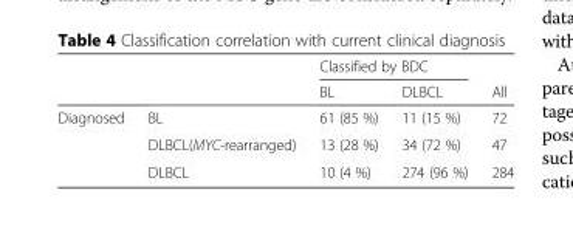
<table><thead><tr><td rowspan="2"></td><td rowspan="2"></td><td colspan="2">Classified by BDC</td><td rowspan="2">All</td></tr><tr><td>BL</td><td>DLBCL</td></tr></thead><tbody><tr><td rowspan="3">Diagnosed</td><td>BL</td><td>61 (85 %)</td><td>11 (15 %)</td><td>72</td></tr><tr><td>DLBCL(MYC-rearranged)</td><td>13 (28 %)</td><td>34 (72 %)</td><td>47</td></tr><tr><td>DLBCL</td><td>10 (4 %)</td><td>274 (96 %)</td><td>284</td></tr></tbody></table>